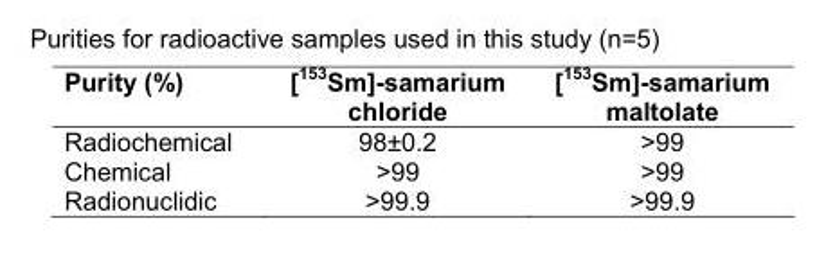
<table><thead><tr><td>Purity (%)</td><td>[<sup>153</sup>Sm]-samarium chloride</td><td>[<sup>153</sup>Sm]-samarium maltolate</td></tr></thead><tbody><tr><td>Radiochemical</td><td>98±0.2</td><td>&gt;99</td></tr><tr><td>Chemical</td><td>&gt;99</td><td>&gt;99</td></tr><tr><td>Radionuclidic</td><td>&gt;99.9</td><td>&gt;99.9</td></tr></tbody></table>